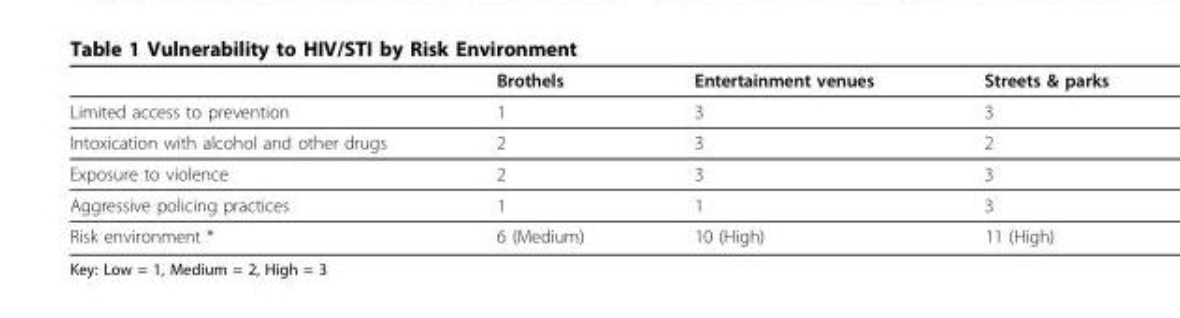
<table><thead><tr><td></td><td>Brothels</td><td>Entertainment venues</td><td>Streets &amp; parks</td></tr></thead><tbody><tr><td>Limited access to prevention</td><td>1</td><td>3</td><td>3</td></tr><tr><td>Intoxication with alcohol and other drugs</td><td>2</td><td>3</td><td>2</td></tr><tr><td>Exposure to violence</td><td>2</td><td>3</td><td>3</td></tr><tr><td>Aggressive policing practices</td><td>1</td><td>1</td><td>3</td></tr><tr><td>Risk environment *</td><td>6 (Medium)</td><td>10 (High)</td><td>11 (High)</td></tr></tbody></table>